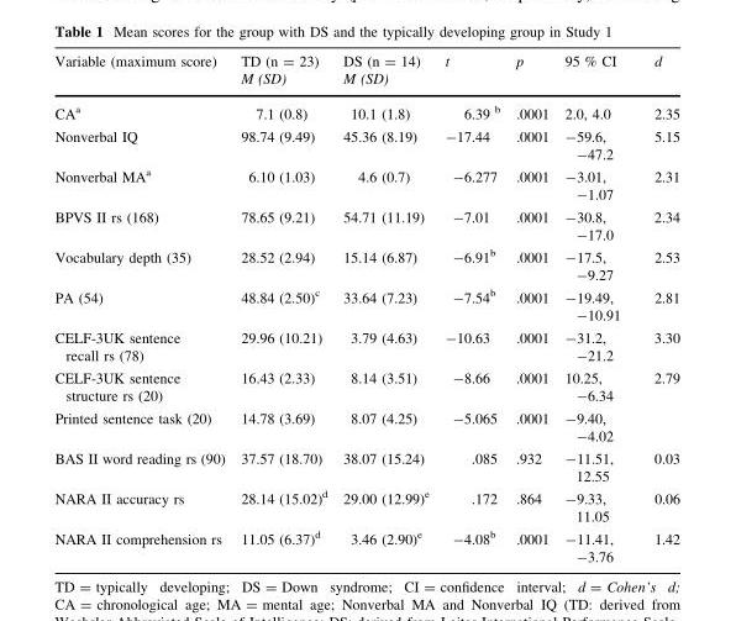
<table><thead><tr><td rowspan="2">Variable (maximum score)</td><td rowspan="2">TD (n = 23) M (SD)</td><td rowspan="2">DS (n = 14) M (SD)</td><td rowspan="2">t</td><td rowspan="2">p</td><td rowspan="2">95 % CI</td><td rowspan="2">d</td></tr><tr></tr></thead><tbody><tr><td>CA<sup>a</sup></td><td>7.1 (0.8)</td><td>10.1 (1.8)</td><td>6.39 <sup>b</sup></td><td>.0001</td><td>2.0, 4.0</td><td>2.35</td></tr><tr><td>Nonverbal IQ</td><td>98.74 (9.49)</td><td>45.36 (8.19)</td><td>-17.44</td><td>.0001</td><td>-59.6, -47.2</td><td>5.15</td></tr><tr><td>Nonverbal MA<sup>a</sup></td><td>6.10 (1.03)</td><td>4.6 (0.7)</td><td>-6.277</td><td>.0001</td><td>-3.01, -1.07</td><td>2.31</td></tr><tr><td>BPVS II rs (168)</td><td>78.65 (9.21)</td><td>54.71 (11.19)</td><td>-7.01</td><td>.0001</td><td>-30.8, -17.0</td><td>2.34</td></tr><tr><td>Vocabulary depth (35)</td><td>28.52 (2.94)</td><td>15.14 (6.87)</td><td>-6.91<sup>b</sup></td><td>.0001</td><td>-17.5, -9.27</td><td>2.53</td></tr><tr><td>PA (54)</td><td>48.84 (2.50)<sup>c</sup></td><td>33.64 (7.23)</td><td>-7.54<sup>b</sup></td><td>.0001</td><td>-19.49, -10.91</td><td>2.81</td></tr><tr><td>CELF-3UK sentence recall rs (78)</td><td>29.96 (10.21)</td><td>3.79 (4.63)</td><td>-10.63</td><td>.0001</td><td>-31.2, -21.2</td><td>3.30</td></tr><tr><td>CELF-3UK sentence structure rs (20)</td><td>16.43 (2.33)</td><td>8.14 (3.51)</td><td>-8.66</td><td>.0001</td><td>10.25, -6.34</td><td>2.79</td></tr><tr><td>Printed sentence task (20)</td><td>14.78 (3.69)</td><td>8.07 (4.25)</td><td>-5.065</td><td>.0001</td><td>-9.40, -4.02</td><td></td></tr><tr><td>BAS II word reading rs (90)</td><td>37.57 (18.70)</td><td>38.07 (15.24)</td><td>.085</td><td>.932</td><td>-11.51, 12.55</td><td>0.03</td></tr><tr><td>NARA II accuracy rs</td><td>28.14 (15.02)<sup>d</sup></td><td>29.00 (12.99)<sup>e</sup></td><td>.172</td><td>.864</td><td>-9.33, 11.05</td><td>0.06</td></tr><tr><td>NARA II comprehension rs</td><td>11.05 (6.37)<sup>d</sup></td><td>3.46 (2.90)<sup>e</sup></td><td>-4.08<sup>b</sup></td><td>.0001</td><td>-11.41, -3.76</td><td>1.42</td></tr></tbody></table>